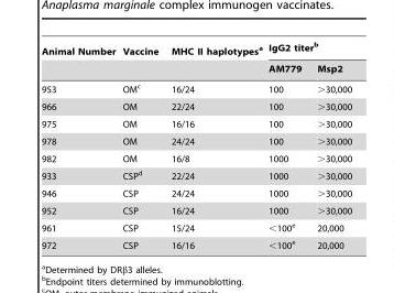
<table><thead><tr><td rowspan="2">Animal Number</td><td rowspan="2">Vaccine</td><td rowspan="2">MHC II haplotypes<sup>a</sup></td><td colspan="2">IgG2 titer<sup>b</sup></td></tr><tr><td>AM779</td><td>Msp2</td></tr></thead><tbody><tr><td>953</td><td>OM<sup>c</sup></td><td>16/24</td><td>100</td><td>&gt;30,000</td></tr><tr><td>966</td><td>OM</td><td>22/24</td><td>100</td><td>&gt;30,000</td></tr><tr><td>975</td><td>OM</td><td>16/16</td><td>100</td><td>&gt;30,000</td></tr><tr><td>978</td><td>OM</td><td>24/24</td><td>100</td><td>&gt;30,000</td></tr><tr><td>982</td><td>OM</td><td>16/8</td><td>1000</td><td>&gt;30,000</td></tr><tr><td>933</td><td>CSP<sup>d</sup></td><td>22/24</td><td>1000</td><td>&gt;30,000</td></tr><tr><td>946</td><td>CSP</td><td>24/24</td><td>1000</td><td>&gt;30,000</td></tr><tr><td>952</td><td>CSP</td><td>16/24</td><td>1000</td><td>&gt;30,000</td></tr><tr><td>961</td><td>CSP</td><td>15/24</td><td>&lt;100<sup>e</sup></td><td>20,000</td></tr><tr><td>972</td><td>CSP</td><td>16/16</td><td>&lt;100<sup>e</sup></td><td>20,000</td></tr></tbody></table>